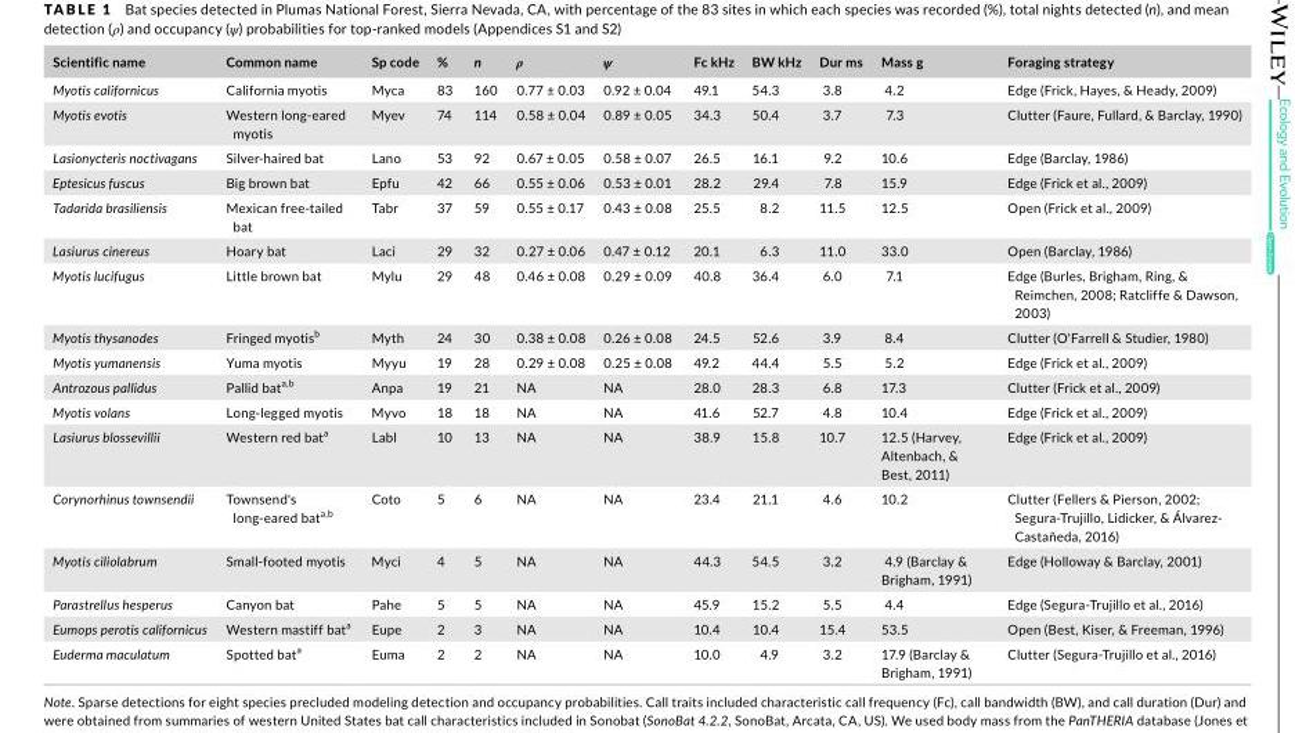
<table><thead><tr><td>Scientific name</td><td>Common name</td><td>Sp code</td><td>%</td><td>n</td><td>ρ</td><td>ψ</td><td>Fc kHz</td><td>BW kHz</td><td>Dur ms</td><td>Mass g</td><td>Foraging strategy</td></tr></thead><tbody><tr><td>Myotis californicus</td><td>California myotis</td><td>Myca</td><td>83</td><td>160</td><td>0.77 ± 0.03</td><td>0.92 ± 0.04</td><td>49.1</td><td>54.3</td><td>3.8</td><td>4.2</td><td>Edge (Frick, Hayes, &amp; Heady, 2009)</td></tr><tr><td>Myotis evotis</td><td>Western long‐eared myotis</td><td>Myev</td><td>74</td><td>114</td><td>0.58 ± 0.04</td><td>0.89 ± 0.05</td><td>34.3</td><td>50.4</td><td>3.7</td><td>7.3</td><td>Clutter (Faure, Fullard, &amp; Barclay, 1990)</td></tr><tr><td>Lasionycteris noctivagans</td><td>Silver‐haired bat</td><td>Lano</td><td>53</td><td>92</td><td>0.67 ± 0.05</td><td>0.58 ± 0.07</td><td>26.5</td><td>16.1</td><td>9.2</td><td>10.6</td><td>Edge (Barclay, 1986)</td></tr><tr><td>Eptesicus fuscus</td><td>Big brown bat</td><td>Epfu</td><td>42</td><td>66</td><td>0.55 ± 0.06</td><td>0.53 ± 0.01</td><td>28.2</td><td>29.4</td><td>7.8</td><td>15.9</td><td>Edge (Frick et al., 2009)</td></tr><tr><td>Tadarida brasiliensis</td><td>Mexican free‐tailed bat</td><td>Tabr</td><td>37</td><td>59</td><td>0.55 ± 0.17</td><td>0.43 ± 0.08</td><td>25.5</td><td>8.2</td><td>11.5</td><td>12.5</td><td>Open (Frick et al., 2009)</td></tr><tr><td>Lasiurus cinereus</td><td>Hoary bat</td><td>Laci</td><td>29</td><td>32</td><td>0.27 ± 0.06</td><td>0.47 ± 0.12</td><td>20.1</td><td>6.3</td><td>11.0</td><td>33.0</td><td>Open (Barclay, 1986)</td></tr><tr><td>Myotis lucifugus</td><td>Little brown bat</td><td>Mylu</td><td>29</td><td>48</td><td>0.46 ± 0.08</td><td>0.29 ± 0.09</td><td>40.8</td><td>36.4</td><td>6.0</td><td>7.1</td><td>Edge (Burles, Brigham, Ring, &amp; Reimchen, 2008; Ratcliffe &amp; Dawson, 2003)</td></tr><tr><td>Myotis thysanodes</td><td>Fringed myotis<sup>b</sup></td><td>Myth</td><td>24</td><td>30</td><td>0.38 ± 0.08</td><td>0.26 ± 0.08</td><td>24.5</td><td>52.6</td><td>3.9</td><td>8.4</td><td>Clutter (O&#x27;Farrell &amp; Studier, 1980)</td></tr><tr><td>Myotis yumanensis</td><td>Yuma myotis</td><td>Myyu</td><td>19</td><td>28</td><td>0.29 ± 0.08</td><td>0.25 ± 0.08</td><td>49.2</td><td>44.4</td><td>5.5</td><td>5.2</td><td>Edge (Frick et al., 2009)</td></tr><tr><td>Antrozous pallidus</td><td>Pallid bat<sup>a</sup>,<sup>b</sup></td><td>Anpa</td><td>19</td><td>21</td><td>NA</td><td>NA</td><td>28.0</td><td>28.3</td><td>6.8</td><td>17.3</td><td>Clutter (Frick et al., 2009)</td></tr><tr><td>Myotis volans</td><td>Long‐legged myotis</td><td>Myvo</td><td>18</td><td>18</td><td>NA</td><td>NA</td><td>41.6</td><td>52.7</td><td>4.8</td><td>10.4</td><td>Edge (Frick et al., 2009)</td></tr><tr><td>Lasiurus blossevillii</td><td>Western red bat<sup>a</sup></td><td>Labl</td><td>10</td><td>13</td><td>NA</td><td>NA</td><td>38.9</td><td>15.8</td><td>10.7</td><td>12.5 (Harvey, Altenbach, &amp; Best, 2011)</td><td>Edge (Frick et al., 2009)</td></tr><tr><td>Corynorhinus townsendii</td><td>Townsend&#x27;s long‐eared bat<sup>a</sup>,<sup>b</sup></td><td>Coto</td><td>5</td><td>6</td><td>NA</td><td>NA</td><td>23.4</td><td>21.1</td><td>4.6</td><td>10.2</td><td>Clutter (Fellers &amp; Pierson, 2002; Segura‐Trujillo, Lidicker, &amp; Álvarez‐ Castañeda, 2016)</td></tr><tr><td>Myotis ciliolabrum</td><td>Small‐footed myotis</td><td>Myci</td><td>4</td><td>5</td><td>NA</td><td>NA</td><td>44.3</td><td>54.5</td><td>3.2</td><td>4.9 (Barclay &amp; Brigham, 1991)</td><td>Edge (Holloway &amp; Barclay, 2001)</td></tr><tr><td>Parastrellus hesperus</td><td>Canyon bat</td><td>Pahe</td><td>5</td><td>5</td><td>NA</td><td>NA</td><td>45.9</td><td>15.2</td><td>5.5</td><td>4.4</td><td>Edge (Segura‐Trujillo et al., 2016)</td></tr><tr><td>Eumops perotis californicus</td><td>Western mastiff bat<sup>a</sup></td><td>Eupe</td><td>2</td><td>3</td><td>NA</td><td>NA</td><td>10.4</td><td>10.4</td><td>15.4</td><td>53.5</td><td>Open (Best, Kiser, &amp; Freeman, 1996)</td></tr><tr><td>Euderma maculatum</td><td>Spotted bat<sup>a</sup></td><td>Euma</td><td>2</td><td>2</td><td>NA</td><td>NA</td><td>10.0</td><td>4.9</td><td>3.2</td><td>17.9 (Barclay &amp; Brigham, 1991)</td><td>Clutter (Segura‐Trujillo et al., 2016)</td></tr></tbody></table>